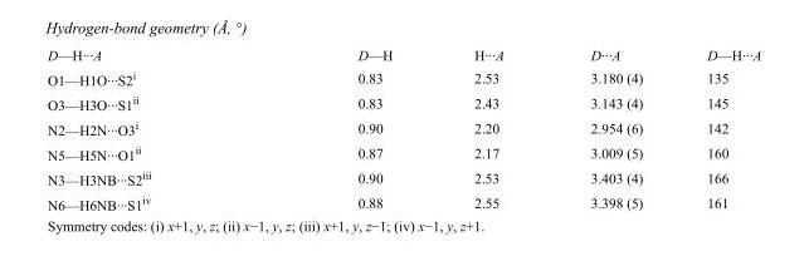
<table><tbody><tr><td>D—H···A</td><td>D—H</td><td>H···A</td><td>D···A</td><td>D—H···A</td></tr><tr><td>O1—H1O···S2<sup>i</sup></td><td>0.83</td><td>2.53</td><td>3.180 (4)</td><td>135</td></tr><tr><td>O3—H3O···S1<sup>ii</sup></td><td>0.83</td><td>2.43</td><td>3.143 (4)</td><td>145</td></tr><tr><td>N2—H2N···O3<sup>i</sup></td><td>0.90</td><td>2.20</td><td>2.954 (6)</td><td>142</td></tr><tr><td>N5—H5N···O1<sup>ii</sup></td><td>0.87</td><td>2.17</td><td>3.009 (5)</td><td>160</td></tr><tr><td>N3—H3NB···S2<sup>iii</sup></td><td>0.90</td><td>2.53</td><td>3.403 (4)</td><td>166</td></tr><tr><td>N6—H6NB···S1<sup>iv</sup></td><td>0.88</td><td>2.55</td><td>3.398 (5)</td><td>161</td></tr></tbody></table>